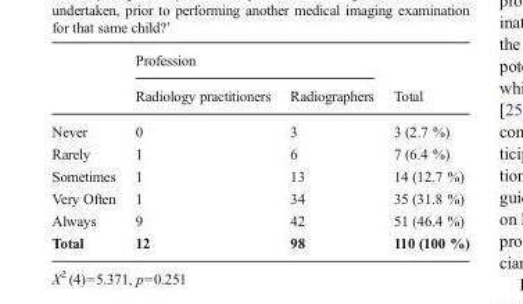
<table><thead><tr><td rowspan="2"></td><td colspan="2">Profession</td><td rowspan="2">Total</td></tr><tr><td>Radiology practitioners</td><td>Radiographers</td></tr></thead><tbody><tr><td>Never</td><td>0</td><td>3</td><td>3 (2.7 %)</td></tr><tr><td>Rarely</td><td>1</td><td>6</td><td>7 (6.4 %)</td></tr><tr><td>Sometimes</td><td>1</td><td>13</td><td>14 (12.7 %)</td></tr><tr><td>Very Often</td><td>1</td><td>34</td><td>35 (31.8 %)</td></tr><tr><td>Always</td><td>9</td><td>42</td><td>51 (46.4 %)</td></tr><tr><td>Total</td><td>12</td><td>98</td><td>110 (100 %)</td></tr></tbody></table>